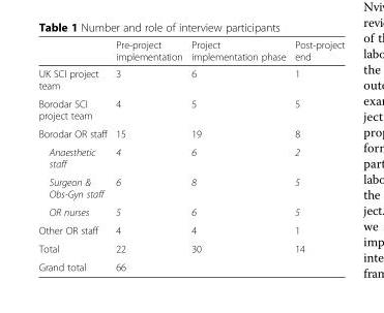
<table><thead><tr><td></td><td>Pre-project implementation</td><td>Project implementation phase</td><td>Post-project end</td></tr></thead><tbody><tr><td>UK SCI project team</td><td>3</td><td>6</td><td>1</td></tr><tr><td>Borodar SCI project team</td><td>4</td><td>5</td><td>5</td></tr><tr><td>Borodar OR staff</td><td>15</td><td>19</td><td>8</td></tr><tr><td>Anaesthetic staff</td><td>4</td><td>6</td><td>2</td></tr><tr><td>Surgeon &amp; Obs-Gyn staff</td><td>6</td><td>8</td><td>5</td></tr><tr><td>OR nurses</td><td>5</td><td>6</td><td>5</td></tr><tr><td>Other OR staff</td><td>4</td><td>4</td><td>1</td></tr><tr><td>Total</td><td>22</td><td>30</td><td>14</td></tr><tr><td>Grand total</td><td colspan="3">66</td></tr></tbody></table>